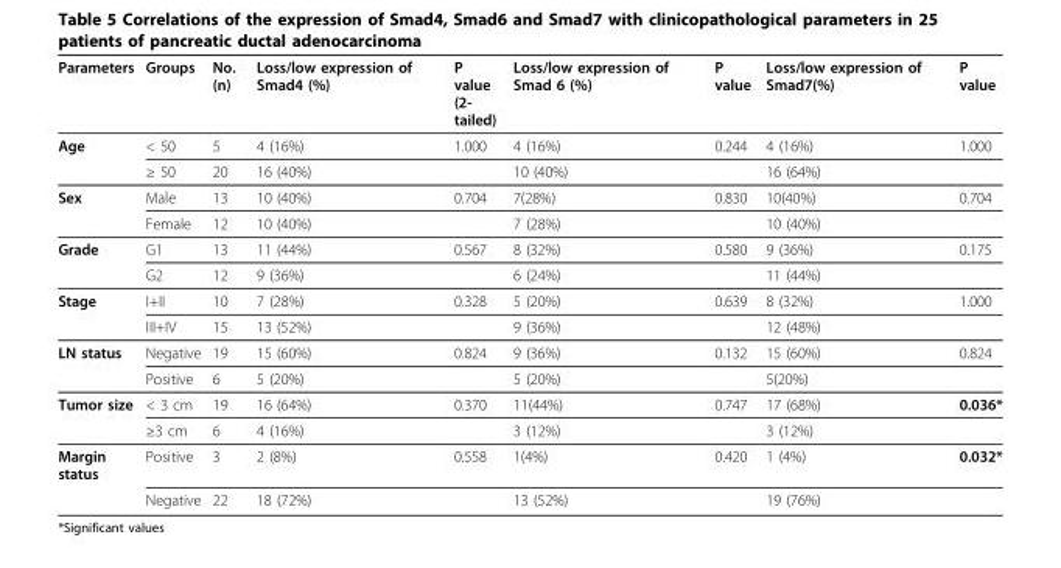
<table><thead><tr><td>Parameters</td><td>Groups</td><td>No. (n)</td><td>Loss/low expression of Smad4 (%)</td><td>P value (2- tailed)</td><td>Loss/low expression of Smad 6 (%)</td><td>P value</td><td>Loss/low expression of Smad7(%)</td><td>P value</td></tr></thead><tbody><tr><td rowspan="2">Age</td><td>&lt; 50</td><td>5</td><td>4 (16%)</td><td>1.000</td><td>4 (16%)</td><td>0.244</td><td>4 (16%)</td><td>1.000</td></tr><tr><td>≥ 50</td><td>20</td><td>16 (40%)</td><td></td><td>10 (40%)</td><td></td><td>16 (64%)</td><td></td></tr><tr><td rowspan="2">Sex</td><td>Male</td><td>13</td><td>10 (40%)</td><td>0.704</td><td>7(28%)</td><td>0.830</td><td>10(40%)</td><td>0.704</td></tr><tr><td>Female</td><td>12</td><td>10 (40%)</td><td></td><td>7 (28%)</td><td></td><td>10 (40%)</td><td></td></tr><tr><td rowspan="2">Grade</td><td>G1</td><td>13</td><td>11 (44%)</td><td>0.567</td><td>8 (32%)</td><td>0.580</td><td>9 (36%)</td><td>0.175</td></tr><tr><td>G2</td><td>12</td><td>9 (36%)</td><td></td><td>6 (24%)</td><td></td><td>11 (44%)</td><td></td></tr><tr><td rowspan="2">Stage</td><td>I+II</td><td>10</td><td>7 (28%)</td><td>0.328</td><td>5 (20%)</td><td>0.639</td><td>8 (32%)</td><td>1.000</td></tr><tr><td>III+IV</td><td>15</td><td>13 (52%)</td><td></td><td>9 (36%)</td><td></td><td>12 (48%)</td><td></td></tr><tr><td rowspan="2">LN status</td><td>Negative</td><td>19</td><td>15 (60%)</td><td>0.824</td><td>9 (36%)</td><td>0.132</td><td>15 (60%)</td><td>0.824</td></tr><tr><td>Positive</td><td>6</td><td>5 (20%)</td><td></td><td>5 (20%)</td><td></td><td>5(20%)</td><td></td></tr><tr><td rowspan="2">Tumor size</td><td>&lt; 3 cm</td><td>19</td><td>16 (64%)</td><td>0.370</td><td>11(44%)</td><td>0.747</td><td>17 (68%)</td><td>0.036*</td></tr><tr><td>≥3 cm</td><td>6</td><td>4 (16%)</td><td></td><td>3 (12%)</td><td></td><td>3 (12%)</td><td></td></tr><tr><td rowspan="2">Margin status</td><td>Positive</td><td>3</td><td>2 (8%)</td><td>0.558</td><td>1(4%)</td><td>0.420</td><td>1 (4%)</td><td>0.032*</td></tr><tr><td>Negative</td><td>22</td><td>18 (72%)</td><td></td><td>13 (52%)</td><td></td><td>19 (76%)</td><td></td></tr></tbody></table>